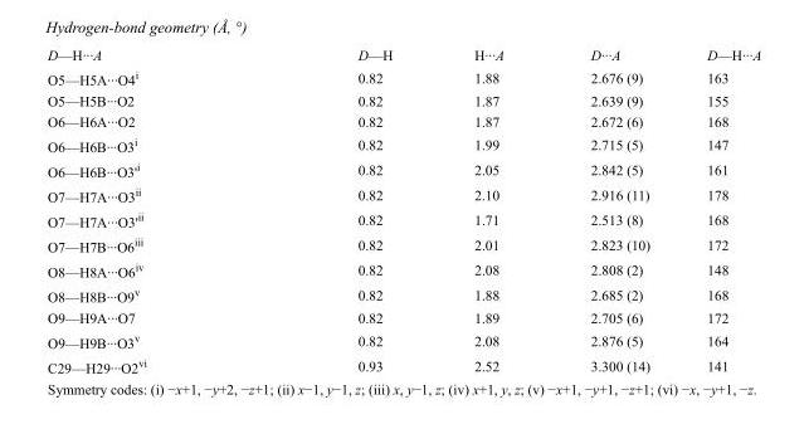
<table><tbody><tr><td>D—H···A</td><td>D—H</td><td>H···A</td><td>D···A</td><td>D—H···A</td></tr><tr><td>O5—H5A···O4<sup>i</sup></td><td>0.82</td><td>1.88</td><td>2.676 (9)</td><td>163</td></tr><tr><td>O5—H5B···O2</td><td>0.82</td><td>1.87</td><td>2.639 (9)</td><td>155</td></tr><tr><td>O6—H6A···O2</td><td>0.82</td><td>1.87</td><td>2.672 (6)</td><td>168</td></tr><tr><td>O6—H6B···O3<sup>i</sup></td><td>0.82</td><td>1.99</td><td>2.715 (5)</td><td>147</td></tr><tr><td>O6—H6B···O3&#x27;<sup>i</sup></td><td>0.82</td><td>2.05</td><td>2.842 (5)</td><td>161</td></tr><tr><td>O7—H7A···O3<sup>ii</sup></td><td>0.82</td><td>2.10</td><td>2.916 (11)</td><td>178</td></tr><tr><td>O7—H7A···O3&#x27;<sup>ii</sup></td><td>0.82</td><td>1.71</td><td>2.513 (8)</td><td>168</td></tr><tr><td>O7—H7B···O6<sup>iii</sup></td><td>0.82</td><td>2.01</td><td>2.823 (10)</td><td>172</td></tr><tr><td>O8—H8A···O6<sup>iv</sup></td><td>0.82</td><td>2.08</td><td>2.808 (2)</td><td>148</td></tr><tr><td>O8—H8B···O9<sup>v</sup></td><td>0.82</td><td>1.88</td><td>2.685 (2)</td><td>168</td></tr><tr><td>O9—H9A···O7</td><td>0.82</td><td>1.89</td><td>2.705 (6)</td><td>172</td></tr><tr><td>O9—H9B···O3<sup>v</sup></td><td>0.82</td><td>2.08</td><td>2.876 (5)</td><td>164</td></tr><tr><td>C29—H29···O2<sup>vi</sup></td><td>0.93</td><td>2.52</td><td>3.300 (14)</td><td>141</td></tr></tbody></table>